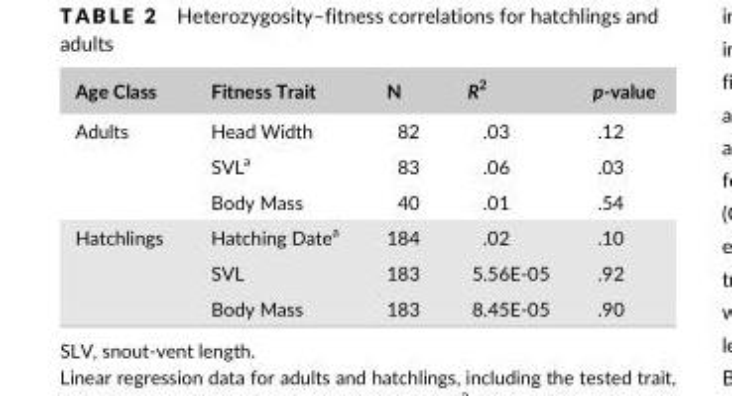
<table><thead><tr><td>Age Class</td><td>Fitness Trait</td><td>N</td><td>R<sup>2</sup></td><td>p- value</td></tr></thead><tbody><tr><td rowspan="3">Adults</td><td>Head Width</td><td>82</td><td>.03</td><td>.12</td></tr><tr><td>SVL<sup>a</sup></td><td>83</td><td>.06</td><td>.03</td></tr><tr><td>Body Mass</td><td>40</td><td>.01</td><td>.54</td></tr><tr><td rowspan="3">Hatchlings</td><td>Hatching Date<sup>a</sup></td><td>184</td><td>.02</td><td>.10</td></tr><tr><td>SVL</td><td>183</td><td>5.56E- 05</td><td>.92</td></tr><tr><td>Body Mass</td><td>183</td><td>8.45E- 05</td><td>.90</td></tr></tbody></table>